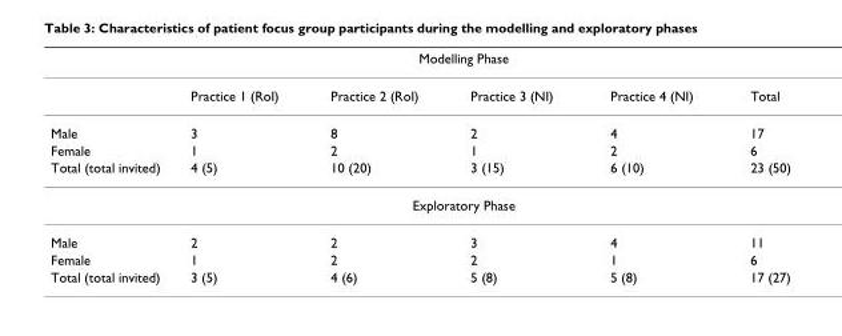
<table><thead><tr><td colspan="6">Modelling Phase</td></tr><tr><td></td><td>Practice 1 (RoI)</td><td>Practice 2 (RoI)</td><td>Practice 3 (NI)</td><td>Practice 4 (NI)</td><td>Total</td></tr></thead><tbody><tr><td>Male</td><td>3</td><td>8</td><td>2</td><td>4</td><td>17</td></tr><tr><td>Female</td><td>1</td><td>2</td><td>1</td><td>2</td><td>6</td></tr><tr><td>Total (total invited)</td><td>4 (5)</td><td>10 (20)</td><td>3 (15)</td><td>6 (10)</td><td>23 (50)</td></tr><tr><td colspan="6">Exploratory Phase</td></tr><tr><td>Male</td><td>2</td><td>2</td><td>3</td><td>4</td><td>11</td></tr><tr><td>Female</td><td>1</td><td>2</td><td>2</td><td>1</td><td>6</td></tr><tr><td>Total (total invited)</td><td>3 (5)</td><td>4 (6)</td><td>5 (8)</td><td>5 (8)</td><td>17 (27)</td></tr></tbody></table>